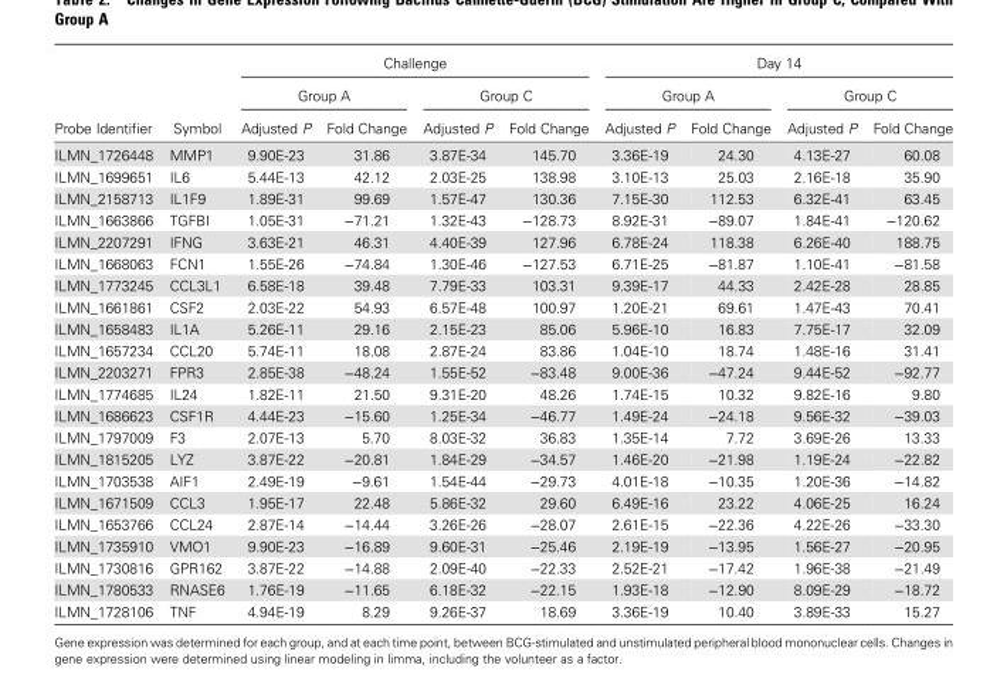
<table><thead><tr><td rowspan="3">Probe Identifier</td><td rowspan="3">Symbol</td><td colspan="4">Challenge</td><td colspan="4">Day 14</td></tr><tr><td colspan="2">Group A</td><td colspan="2">Group C</td><td colspan="2">Group A</td><td colspan="2">Group C</td></tr><tr><td>Adjusted P</td><td>Fold Change</td><td>Adjusted P</td><td>Fold Change</td><td>Adjusted P</td><td>Fold Change</td><td>Adjusted P</td><td>Fold Change</td></tr></thead><tbody><tr><td>ILMN_1726448</td><td>MMP1</td><td>9.90E-23</td><td>31.86</td><td>3.87E-34</td><td>145.70</td><td>3.36E-19</td><td>24.30</td><td>4.13E-27</td><td>60.08</td></tr><tr><td>ILMN_1699651</td><td>IL6</td><td>5.44E-13</td><td>42.12</td><td>2.03E-25</td><td>138.98</td><td>3.10E-13</td><td>25.03</td><td>2.16E-18</td><td>35.90</td></tr><tr><td>ILMN_2158713</td><td>IL1F9</td><td>1.89E-31</td><td>99.69</td><td>1.57E-47</td><td>130.36</td><td>7.15E-30</td><td>112.53</td><td>6.32E-41</td><td>63.45</td></tr><tr><td>ILMN_1663866</td><td>TGFBI</td><td>1.05E-31</td><td>−71.21</td><td>1.32E-43</td><td>−128.73</td><td>8.92E-31</td><td>−89.07</td><td>1.84E-41</td><td>−120.62</td></tr><tr><td>ILMN_2207291</td><td>IFNG</td><td>3.63E-21</td><td>46.31</td><td>4.40E-39</td><td>127.96</td><td>6.78E-24</td><td>118.38</td><td>6.26E-40</td><td>188.75</td></tr><tr><td>ILMN_1668063</td><td>FCN1</td><td>1.55E-26</td><td>−74.84</td><td>1.30E-46</td><td>−127.53</td><td>6.71E-25</td><td>−81.87</td><td>1.10E-41</td><td>−81.58</td></tr><tr><td>ILMN_1773245</td><td>CCL3L1</td><td>6.58E-18</td><td>39.48</td><td>7.79E-33</td><td>103.31</td><td>9.39E-17</td><td>44.33</td><td>2.42E-28</td><td>28.85</td></tr><tr><td>ILMN_1661861</td><td>CSF2</td><td>2.03E-22</td><td>54.93</td><td>6.57E-48</td><td>100.97</td><td>1.20E-21</td><td>69.61</td><td>1.47E-43</td><td>70.41</td></tr><tr><td>ILMN_1658483</td><td>IL1A</td><td>5.26E-11</td><td>29.16</td><td>2.15E-23</td><td>85.06</td><td>5.96E-10</td><td>16.83</td><td>7.75E-17</td><td>32.09</td></tr><tr><td>ILMN_1657234</td><td>CCL20</td><td>5.74E-11</td><td>18.08</td><td>2.87E-24</td><td>83.86</td><td>1.04E-10</td><td>18.74</td><td>1.48E-16</td><td>31.41</td></tr><tr><td>ILMN_2203271</td><td>FPR3</td><td>2.85E-38</td><td>−48.24</td><td>1.55E-52</td><td>−83.48</td><td>9.00E-36</td><td>−47.24</td><td>9.44E-52</td><td>−92.77</td></tr><tr><td>ILMN_1774685</td><td>IL24</td><td>1.82E-11</td><td>21.50</td><td>9.31E-20</td><td>48.26</td><td>1.74E-15</td><td>10.32</td><td>9.82E-16</td><td>9.80</td></tr><tr><td>ILMN_1686623</td><td>CSF1R</td><td>4.44E-23</td><td>−15.60</td><td>1.25E-34</td><td>−46.77</td><td>1.49E-24</td><td>−24.18</td><td>9.56E-32</td><td>−39.03</td></tr><tr><td>ILMN_1797009</td><td>F3</td><td>2.07E-13</td><td>5.70</td><td>8.03E-32</td><td>36.83</td><td>1.35E-14</td><td>7.72</td><td>3.69E-26</td><td>13.33</td></tr><tr><td>ILMN_1815205</td><td>LYZ</td><td>3.87E-22</td><td>−20.81</td><td>1.84E-29</td><td>−34.57</td><td>1.46E-20</td><td>−21.98</td><td>1.19E-24</td><td>−22.82</td></tr><tr><td>ILMN_1703538</td><td>AIF1</td><td>2.49E-19</td><td>−9.61</td><td>1.54E-44</td><td>−29.73</td><td>4.01E-18</td><td>−10.35</td><td>1.20E-36</td><td>−14.82</td></tr><tr><td>ILMN_1671509</td><td>CCL3</td><td>1.95E-17</td><td>22.48</td><td>5.86E-32</td><td>29.60</td><td>6.49E-16</td><td>23.22</td><td>4.06E-25</td><td>16.24</td></tr><tr><td>ILMN_1653766</td><td>CCL24</td><td>2.87E-14</td><td>−14.44</td><td>3.26E-26</td><td>−28.07</td><td>2.61E-15</td><td>−22.36</td><td>4.22E-26</td><td>−33.30</td></tr><tr><td>ILMN_1735910</td><td>VMO1</td><td>9.90E-23</td><td>−16.89</td><td>9.60E-31</td><td>−25.46</td><td>2.19E-19</td><td>−13.95</td><td>1.56E-27</td><td>−20.95</td></tr><tr><td>ILMN_1730816</td><td>GPR162</td><td>3.87E-22</td><td>−14.88</td><td>2.09E-40</td><td>−22.33</td><td>2.52E-21</td><td>−17.42</td><td>1.96E-38</td><td>−21.49</td></tr><tr><td>ILMN_1780533</td><td>RNASE6</td><td>1.76E-19</td><td>−11.65</td><td>6.18E-32</td><td>−22.15</td><td>1.93E-18</td><td>−12.90</td><td>8.09E-29</td><td>−18.72</td></tr><tr><td>ILMN_1728106</td><td>TNF</td><td>4.94E-19</td><td>8.29</td><td>9.26E-37</td><td>18.69</td><td>3.36E-19</td><td>10.40</td><td>3.89E-33</td><td>15.27</td></tr></tbody></table>